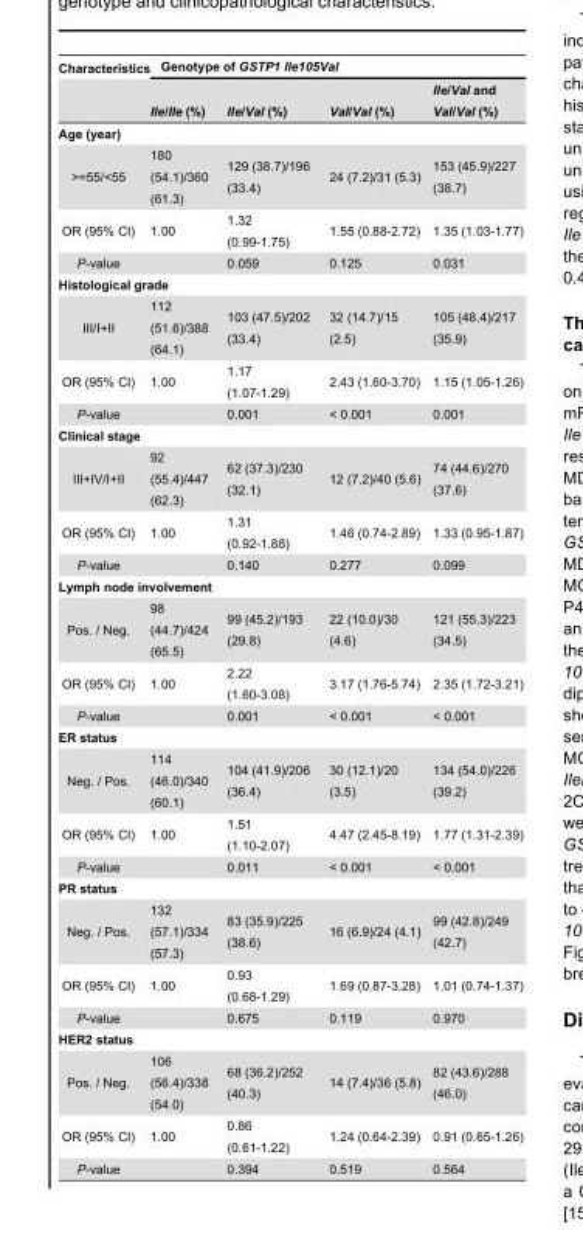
<table><thead><tr><td rowspan="2">Characteristics</td><td colspan="4">Genotype of GSTP1 Ile105Val</td></tr><tr><td>Ile/Ile (%)</td><td>Ile/Val (%)</td><td>Val/Val (%)</td><td>Ile/Val and Val/Val (%)</td></tr></thead><tbody><tr><td colspan="5">Age (year)</td></tr><tr><td>&gt;=55/&lt;55</td><td>180 (54.1)/360 (61.3)</td><td>129 (38.7)/196 (33.4)</td><td>24 (7.2)/31 (5.3)</td><td>153 (45.9)/227 (38.7)</td></tr><tr><td>OR (95% CI)</td><td>1.00</td><td>1.32 (0.99-1.75)</td><td>1.55 (0.88-2.72)</td><td>1.35 (1.03-1.77)</td></tr><tr><td>P-value</td><td></td><td>0.059</td><td>0.125</td><td>0.031</td></tr><tr><td colspan="5">Histological grade</td></tr><tr><td>III/I+II</td><td>112 (51.6)/388 (64.1)</td><td>103 (47.5)/202 (33.4)</td><td>32 (14.7)/15 (2.5)</td><td>105 (48.4)/217 (35.9)</td></tr><tr><td>OR (95% CI)</td><td>1.00</td><td>1.17 (1.07-1.29)</td><td>2.43 (1.60-3.70)</td><td>1.15 (1.05-1.26)</td></tr><tr><td>P-value</td><td></td><td>0.001</td><td>&lt; 0.001</td><td>0.001</td></tr><tr><td colspan="5">Clinical stage</td></tr><tr><td>III+IV/I+II</td><td>92 (55.4)/447 (62.3)</td><td>62 (37.3)/230 (32.1)</td><td>12 (7.2)/40 (5.6)</td><td>74 (44.6)/270 (37.6)</td></tr><tr><td>OR (95% CI)</td><td>1.00</td><td>1.31 (0.92-1.88)</td><td>1.46 (0.74-2.89)</td><td>1.33 (0.95-1.87)</td></tr><tr><td>P-value</td><td></td><td>0.140</td><td>0.277</td><td>0.099</td></tr><tr><td colspan="5">Lymph node involvement</td></tr><tr><td>Pos. / Neg.</td><td>98 (44.7)/424 (65.5)</td><td>99 (45.2)/193 (29.8)</td><td>22 (10.0)/30 (4.6)</td><td>121 (55.3)/223 (34.5)</td></tr><tr><td>OR (95% CI)</td><td>1.00</td><td>2.22 (1.60-3.08)</td><td>3.17 (1.76-5.74)</td><td>2.35 (1.72-3.21)</td></tr><tr><td>P-value</td><td></td><td>0.001</td><td>&lt; 0.001</td><td>&lt; 0.001</td></tr><tr><td colspan="5">ER status</td></tr><tr><td>Neg. / Pos.</td><td>114 (46.0)/340 (60.1)</td><td>104 (41.9)/206 (36.4)</td><td>30 (12.1)/20 (3.5)</td><td>134 (54.0)/226 (39.2)</td></tr><tr><td>OR (95% CI)</td><td>1.00</td><td>1.51 (1.10-2.07)</td><td>4.47 (2.45-8.19)</td><td>1.77 (1.31-2.39)</td></tr><tr><td>P-value</td><td></td><td>0.011</td><td>&lt; 0.001</td><td>&lt; 0.001</td></tr><tr><td colspan="5">PR status</td></tr><tr><td>Neg. / Pos.</td><td>132 (57.1)/334 (57.3)</td><td>83 (35.9)/225 (38.6)</td><td>16 (6.9)/24 (4.1)</td><td>99 (42.8)/249 (42.7)</td></tr><tr><td>OR (95% CI)</td><td>1.00</td><td>0.93 (0.68-1.29)</td><td>1.69 (0.87-3.28)</td><td>1.01 (0.74-1.37)</td></tr><tr><td>P-value</td><td></td><td>0.675</td><td>0.119</td><td>0.970</td></tr><tr><td colspan="5">HER2 status</td></tr><tr><td>Pos. / Neg.</td><td>106 (56.4)/338 (54.0)</td><td>68 (36.2)/252 (40.3)</td><td>14 (7.4)/36 (5.8)</td><td>82 (43.6)/288 (46.0)</td></tr><tr><td>OR (95% CI)</td><td>1.00</td><td>0.86 (0.61-1.22)</td><td>1.24 (0.64-2.39)</td><td>0.91 (0.65-1.26)</td></tr><tr><td>P-value</td><td></td><td>0.394</td><td>0.519</td><td>0.564</td></tr></tbody></table>